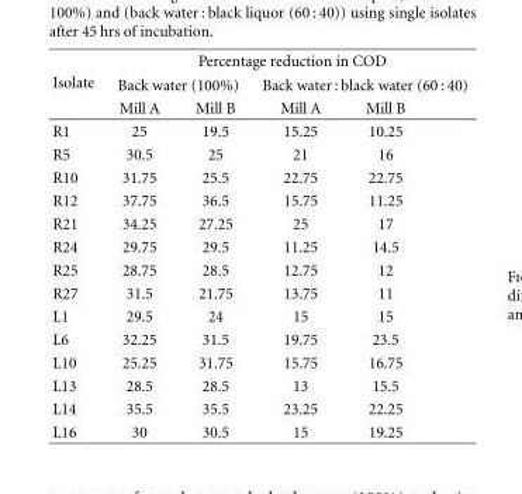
<table><thead><tr><td rowspan="3">Isolate</td><td colspan="4">Percentage reduction in COD</td></tr><tr><td colspan="2">Back water (100%)</td><td colspan="2">Back water : black water (60 : 40)</td></tr><tr><td>Mill A</td><td>Mill B</td><td>Mill A</td><td>Mill B</td></tr></thead><tbody><tr><td>R1</td><td>25</td><td>19.5</td><td>15.25</td><td>10.25</td></tr><tr><td>R5</td><td>30.5</td><td>25</td><td>21</td><td>16</td></tr><tr><td>R10</td><td>31.75</td><td>25.5</td><td>22.75</td><td>22.75</td></tr><tr><td>R12</td><td>37.75</td><td>36.5</td><td>15.75</td><td>11.25</td></tr><tr><td>R21</td><td>34.25</td><td>27.25</td><td>25</td><td>17</td></tr><tr><td>R24</td><td>29.75</td><td>29.5</td><td>11.25</td><td>14.5</td></tr><tr><td>R25</td><td>28.75</td><td>28.5</td><td>12.75</td><td>12</td></tr><tr><td>R27</td><td>31.5</td><td>21.75</td><td>13.75</td><td>11</td></tr><tr><td>L1</td><td>29.5</td><td>24</td><td>15</td><td>15</td></tr><tr><td>L6</td><td>32.25</td><td>31.5</td><td>19.75</td><td>23.5</td></tr><tr><td>L10</td><td>25.25</td><td>31.75</td><td>15.75</td><td>16.75</td></tr><tr><td>L13</td><td>28.5</td><td>28.5</td><td>13</td><td>15.5</td></tr><tr><td>L14</td><td>35.5</td><td>35.5</td><td>23.25</td><td>22.25</td></tr><tr><td>L16</td><td>30</td><td>30.5</td><td>15</td><td>19.25</td></tr></tbody></table>